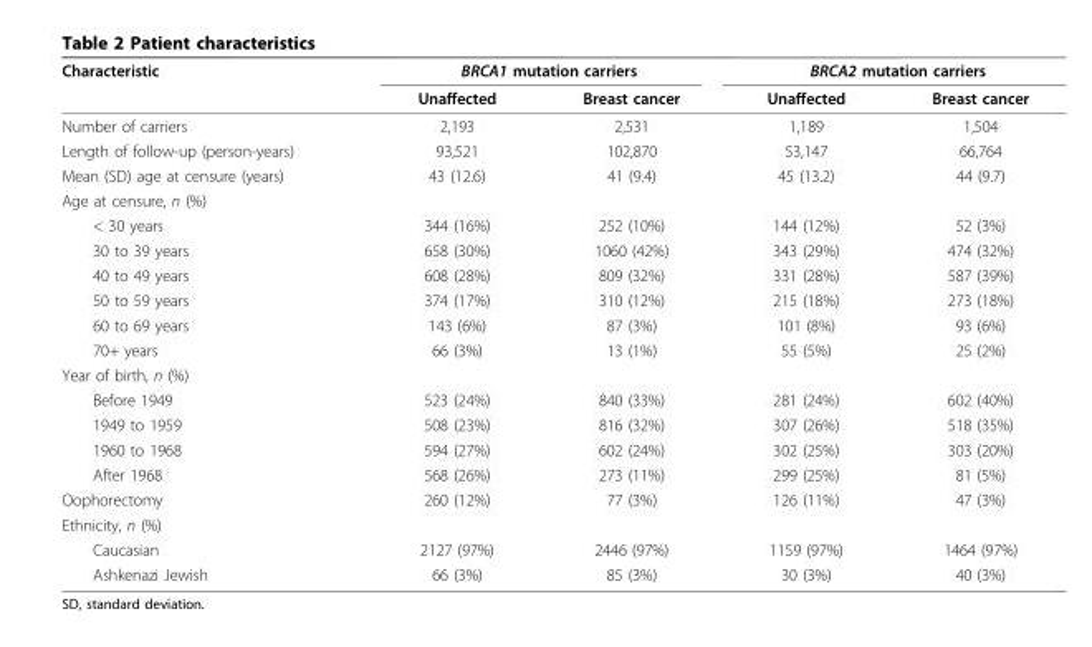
<table><thead><tr><td rowspan="2">Characteristic</td><td colspan="2">BRCA1 mutation carriers</td><td colspan="2">BRCA2 mutation carriers</td></tr><tr><td>Unaffected</td><td>Breast cancer</td><td>Unaffected</td><td>Breast cancer</td></tr></thead><tbody><tr><td>Number of carriers</td><td>2,193</td><td>2,531</td><td>1,189</td><td>1,504</td></tr><tr><td>Length of follow-up (person-years)</td><td>93,521</td><td>102,870</td><td>53,147</td><td>66,764</td></tr><tr><td>Mean (SD) age at censure (years)</td><td>43 (12.6)</td><td>41 (9.4)</td><td>45 (13.2)</td><td>44 (9.7)</td></tr><tr><td colspan="5">Age at censure, n (%)</td></tr><tr><td>&lt; 30 years</td><td>344 (16%)</td><td>252 (10%)</td><td>144 (12%)</td><td>52 (3%)</td></tr><tr><td>30 to 39 years</td><td>658 (30%)</td><td>1060 (42%)</td><td>343 (29%)</td><td>474 (32%)</td></tr><tr><td>40 to 49 years</td><td>608 (28%)</td><td>809 (32%)</td><td>331 (28%)</td><td>587 (39%)</td></tr><tr><td>50 to 59 years</td><td>374 (17%)</td><td>310 (12%)</td><td>215 (18%)</td><td>273 (18%)</td></tr><tr><td>60 to 69 years</td><td>143 (6%)</td><td>87 (3%)</td><td>101 (8%)</td><td>93 (6%)</td></tr><tr><td>70+ years</td><td>66 (3%)</td><td>13 (1%)</td><td>55 (5%)</td><td>25 (2%)</td></tr><tr><td colspan="5">Year of birth, n (%)</td></tr><tr><td>Before 1949</td><td>523 (24%)</td><td>840 (33%)</td><td>281 (24%)</td><td>602 (40%)</td></tr><tr><td>1949 to 1959</td><td>508 (23%)</td><td>816 (32%)</td><td>307 (26%)</td><td>518 (35%)</td></tr><tr><td>1960 to 1968</td><td>594 (27%)</td><td>602 (24%)</td><td>302 (25%)</td><td>303 (20%)</td></tr><tr><td>After 1968</td><td>568 (26%)</td><td>273 (11%)</td><td>299 (25%)</td><td>81 (5%)</td></tr><tr><td>Oophorectomy</td><td>260 (12%)</td><td>77 (3%)</td><td>126 (11%)</td><td>47 (3%)</td></tr><tr><td colspan="5">Ethnicity, n (%)</td></tr><tr><td>Caucasian</td><td>2127 (97%)</td><td>2446 (97%)</td><td>1159 (97%)</td><td>1464 (97%)</td></tr><tr><td>Ashkenazi Jewish</td><td>66 (3%)</td><td>85 (3%)</td><td>30 (3%)</td><td>40 (3%)</td></tr></tbody></table>